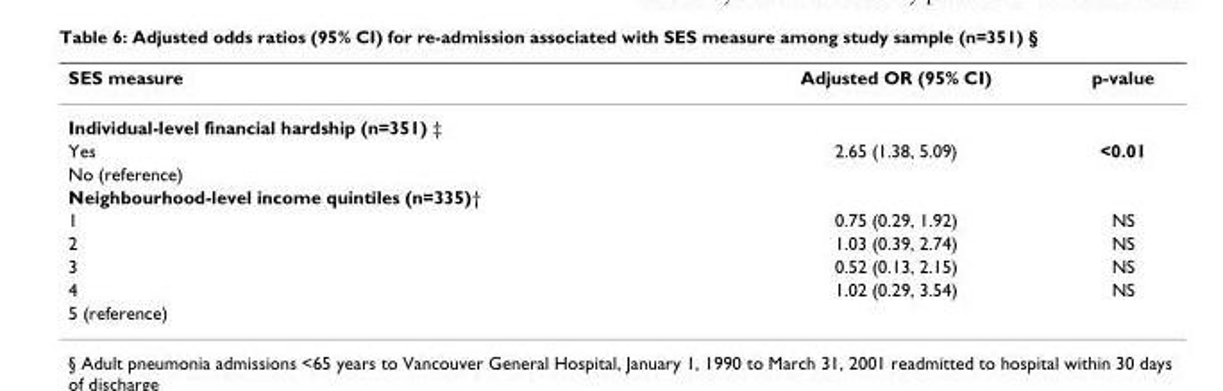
<table><thead><tr><td>SES measure</td><td>Adjusted OR (95% CI)</td><td>p-value</td></tr></thead><tbody><tr><td colspan="3">Individual-level financial hardship (n=351) ‡</td></tr><tr><td>Yes</td><td>2.65 (1.38, 5.09)</td><td>&lt;0.01</td></tr><tr><td colspan="3">No (reference)</td></tr><tr><td colspan="3">Neighbourhood-level income quintiles (n=335)†</td></tr><tr><td>1</td><td>0.75 (0.29, 1.92)</td><td>NS</td></tr><tr><td>2</td><td>1.03 (0.39, 2.74)</td><td>NS</td></tr><tr><td>3</td><td>0.52 (0.13, 2.15)</td><td>NS</td></tr><tr><td>4</td><td>1.02 (0.29, 3.54)</td><td>NS</td></tr><tr><td>5 (reference)</td><td></td><td></td></tr></tbody></table>